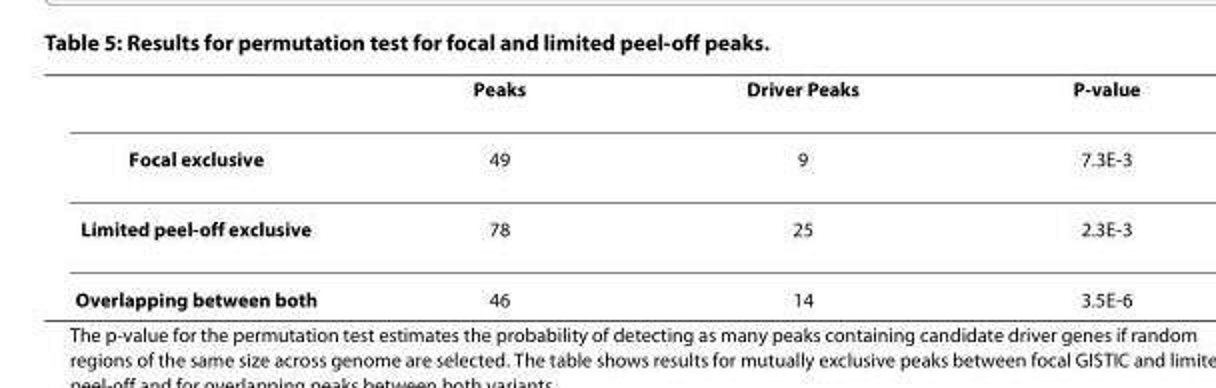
<table><thead><tr><td></td><td>Peaks</td><td>Driver Peaks</td><td>P-value</td></tr></thead><tbody><tr><td>Focal exclusive</td><td>49</td><td>9</td><td>7.3E-3</td></tr><tr><td>Limited peel-off exclusive</td><td>78</td><td>25</td><td>2.3E-3</td></tr><tr><td>Overlapping between both</td><td>46</td><td>14</td><td>3.5E-6</td></tr></tbody></table>